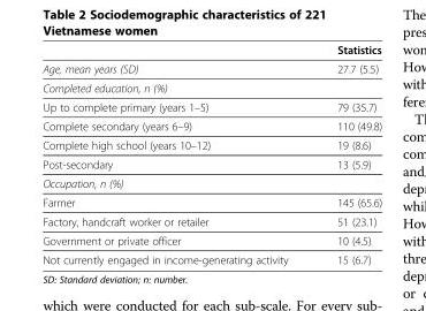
<table><thead><tr><td></td><td>Statistics</td></tr></thead><tbody><tr><td>Age, mean years (SD)</td><td>27.7 (5.5)</td></tr><tr><td colspan="2">Completed education, n (%)</td></tr><tr><td>Up to complete primary (years 1–5)</td><td>79 (35.7)</td></tr><tr><td>Complete secondary (years 6–9)</td><td>110 (49.8)</td></tr><tr><td>Complete high school (years 10–12)</td><td>19 (8.6)</td></tr><tr><td>Post-secondary</td><td>13 (5.9)</td></tr><tr><td colspan="2">Occupation, n (%)</td></tr><tr><td>Farmer</td><td>145 (65.6)</td></tr><tr><td>Factory, handcraft worker or retailer</td><td>51 (23.1)</td></tr><tr><td>Government or private officer</td><td>10 (4.5)</td></tr><tr><td>Not currently engaged in income-generating activity</td><td>15 (6.7)</td></tr></tbody></table>